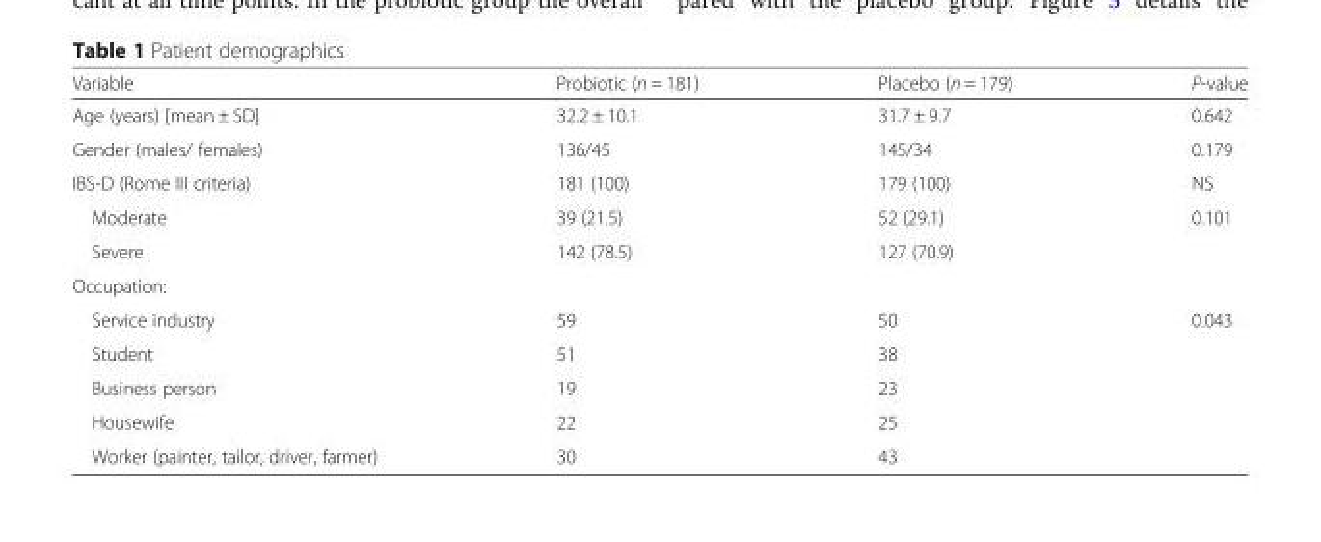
<table><thead><tr><td>Variable</td><td>Probiotic (n = 181)</td><td>Placebo (n = 179)</td><td>P-value</td></tr></thead><tbody><tr><td>Age (years) [mean ± SD]</td><td>32.2 ± 10.1</td><td>31.7 ± 9.7</td><td>0.642</td></tr><tr><td>Gender (males/ females)</td><td>136/45</td><td>145/34</td><td>0.179</td></tr><tr><td>IBS-D (Rome III criteria)</td><td>181 (100)</td><td>179 (100)</td><td>NS</td></tr><tr><td>Moderate</td><td>39 (21.5)</td><td>52 (29.1)</td><td rowspan="2">0.101</td></tr><tr><td>Severe</td><td>142 (78.5)</td><td>127 (70.9)</td></tr><tr><td colspan="4">Occupation:</td></tr><tr><td>Service industry</td><td>59</td><td>50</td><td rowspan="5">0.043</td></tr><tr><td>Student</td><td>51</td><td>38</td></tr><tr><td>Business person</td><td>19</td><td>23</td></tr><tr><td>Housewife</td><td>22</td><td>25</td></tr><tr><td>Worker (painter, tailor, driver, farmer)</td><td>30</td><td>43</td></tr></tbody></table>